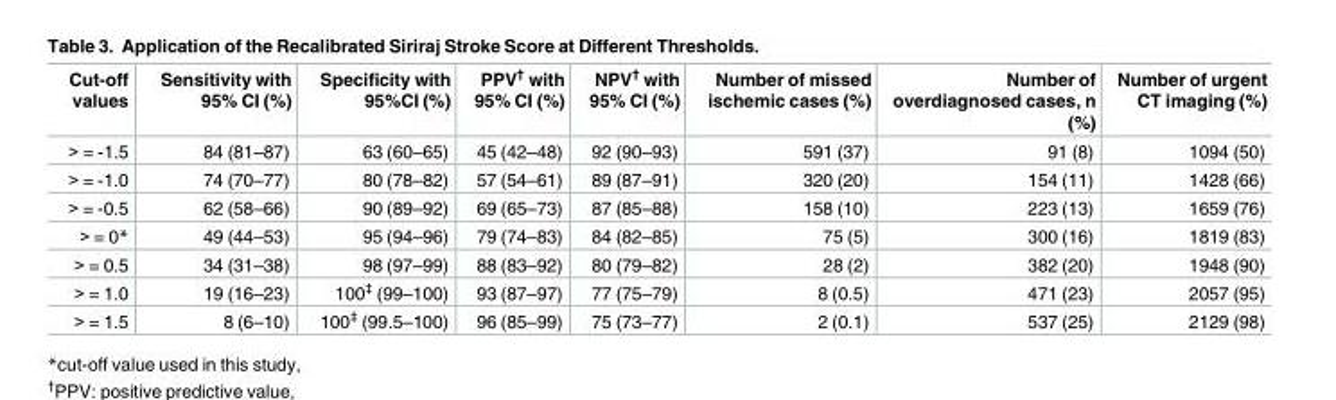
<table><thead><tr><td>Cut-off values</td><td>Sensitivity with 95% CI (%)</td><td>Specificity with 95%CI (%)</td><td>PPV<sup>†</sup> with 95% CI (%)</td><td>NPV<sup>†</sup> with 95% CI (%)</td><td>Number of missed ischemic cases (%)</td><td>Number of overdiagnosed cases, n (%)</td><td>Number of urgent CT imaging (%)</td></tr></thead><tbody><tr><td>&gt; = -1.5</td><td>84 (81–87)</td><td>63 (60–65)</td><td>45 (42–48)</td><td>92 (90–93)</td><td>591 (37)</td><td>91 (8)</td><td>1094 (50)</td></tr><tr><td>&gt; = -1.0</td><td>74 (70–77)</td><td>80 (78–82)</td><td>57 (54–61)</td><td>89 (87–91)</td><td>320 (20)</td><td>154 (11)</td><td>1428 (66)</td></tr><tr><td>&gt; = -0.5</td><td>62 (58–66)</td><td>90 (89–92)</td><td>69 (65–73)</td><td>87 (85–88)</td><td>158 (10)</td><td>223 (13)</td><td>1659 (76)</td></tr><tr><td>&gt; = 0*</td><td>49 (44–53)</td><td>95 (94–96)</td><td>79 (74–83)</td><td>84 (82–85)</td><td>75 (5)</td><td>300 (16)</td><td>1819 (83)</td></tr><tr><td>&gt; = 0.5</td><td>34 (31–38)</td><td>98 (97–99)</td><td>88 (83–92)</td><td>80 (79–82)</td><td>28 (2)</td><td>382 (20)</td><td>1948 (90)</td></tr><tr><td>&gt; = 1.0</td><td>19 (16–23)</td><td>100<sup>‡</sup> (99–100)</td><td>93 (87–97)</td><td>77 (75–79)</td><td>8 (0.5)</td><td>471 (23)</td><td>2057 (95)</td></tr><tr><td>&gt; = 1.5</td><td>8 (6–10)</td><td>100<sup>‡</sup> (99.5–100)</td><td>96 (85–99)</td><td>75 (73–77)</td><td>2 (0.1)</td><td>537 (25)</td><td>2129 (98)</td></tr></tbody></table>